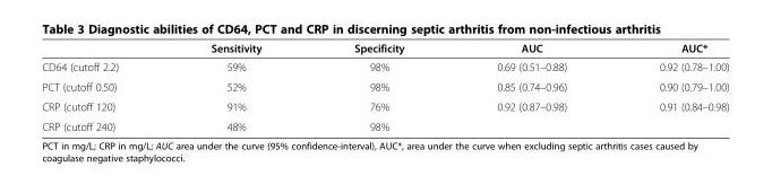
<table><thead><tr><td></td><td>Sensitivity</td><td>Specificity</td><td>AUC</td><td>AUC*</td></tr></thead><tbody><tr><td>CD64 (cutoff 2.2)</td><td>59%</td><td>98%</td><td>0.69 (0.51–0.88)</td><td>0.92 (0.78–1.00)</td></tr><tr><td>PCT (cutoff 0.50)</td><td>52%</td><td>98%</td><td>0.85 (0.74–0.96)</td><td>0.90 (0.79–1.00)</td></tr><tr><td>CRP (cutoff 120)</td><td>91%</td><td>76%</td><td>0.92 (0.87–0.98)</td><td>0.91 (0.84–0.98)</td></tr><tr><td>CRP (cutoff 240)</td><td>48%</td><td>98%</td><td></td><td></td></tr></tbody></table>